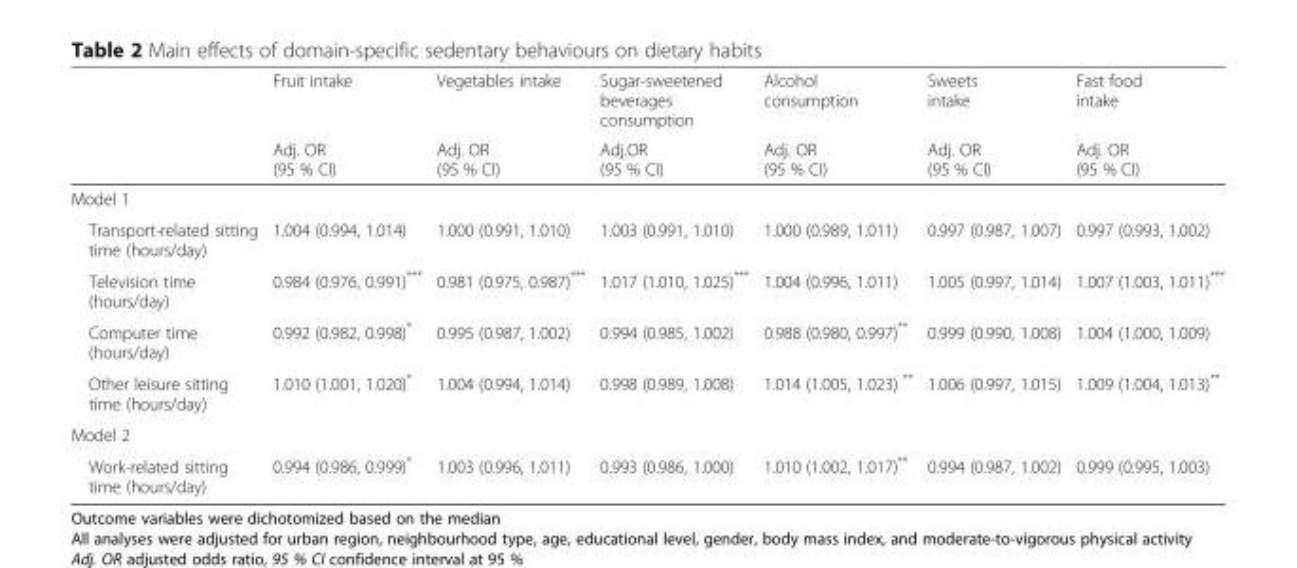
<table><thead><tr><td rowspan="2"></td><td rowspan="2">Fruit intake Adj. OR (95 % CI)</td><td rowspan="2">Vegetables intake Adj. OR (95 % CI)</td><td rowspan="2">Sugar-sweetened beverages consumption Adj.OR (95 % CI)</td><td rowspan="2">Alcohol consumption Adj. OR (95 % CI)</td><td rowspan="2">Sweets intake Adj. OR (95 % CI)</td><td rowspan="2">Fast food intake Adj. OR (95 % CI)</td></tr><tr></tr></thead><tbody><tr><td colspan="7">Model 1</td></tr><tr><td>Transport-related sitting time (hours/day)</td><td>1.004 (0.994, 1.014)</td><td>1.000 (0.991, 1.010)</td><td>1.003 (0.991, 1.010)</td><td>1.000 (0.989, 1.011)</td><td>0.997 (0.987, 1.007)</td><td>0.997 (0.993, 1.002)</td></tr><tr><td>Television time (hours/day)</td><td>0.984 (0.976, 0.991)***</td><td>0.981 (0.975, 0.987)***</td><td>1.017 (1.010, 1.025)***</td><td>1.004 (0.996, 1.011)</td><td>1.005 (0.997, 1.014)</td><td>1.007 (1.003, 1.011)***</td></tr><tr><td>Computer time (hours/day)</td><td>0.992 (0.982, 0.998)*</td><td>0.995 (0.987, 1.002)</td><td>0.994 (0.985, 1.002)</td><td>0.988 (0.980, 0.997)**</td><td>0.999 (0.990, 1.008)</td><td>1.004 (1.000, 1.009)</td></tr><tr><td>Other leisure sitting time (hours/day)</td><td>1.010 (1.001, 1.020)*</td><td>1.004 (0.994, 1.014)</td><td>0.998 (0.989, 1.008)</td><td>1.014 (1.005, 1.023) **</td><td>1.006 (0.997, 1.015)</td><td>1.009 (1.004, 1.013)**</td></tr><tr><td colspan="7">Model 2</td></tr><tr><td>Work-related sitting time (hours/day)</td><td>0.994 (0.986, 0.999)*</td><td>1.003 (0.996, 1.011)</td><td>0.993 (0.986, 1.000)</td><td>1.010 (1.002, 1.017)**</td><td>0.994 (0.987, 1.002)</td><td>0.999 (0.995, 1.003)</td></tr></tbody></table>